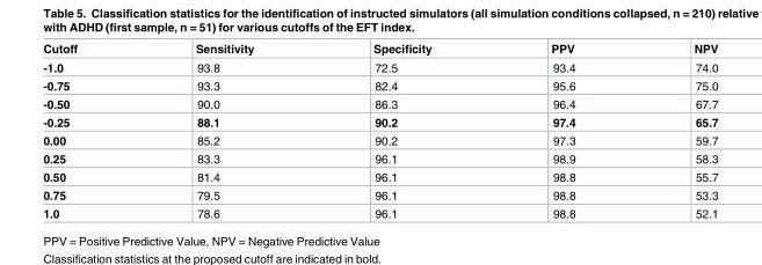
<table><thead><tr><td>Cutoff</td><td>Sensitivity</td><td>Specificity</td><td>PPV</td><td>NPV</td></tr></thead><tbody><tr><td>-1.0</td><td>93.8</td><td>72.5</td><td>93.4</td><td>74.0</td></tr><tr><td>-0.75</td><td>93.3</td><td>82.4</td><td>95.6</td><td>75.0</td></tr><tr><td>-0.50</td><td>90.0</td><td>86.3</td><td>96.4</td><td>67.7</td></tr><tr><td>-0.25</td><td>88.1</td><td>90.2</td><td>97.4</td><td>65.7</td></tr><tr><td>0.00</td><td>85.2</td><td>90.2</td><td>97.3</td><td>59.7</td></tr><tr><td>0.25</td><td>83.3</td><td>96.1</td><td>98.9</td><td>58.3</td></tr><tr><td>0.50</td><td>81.4</td><td>96.1</td><td>98.8</td><td>55.7</td></tr><tr><td>0.75</td><td>79.5</td><td>96.1</td><td>98.8</td><td>53.3</td></tr><tr><td>1.0</td><td>78.6</td><td>96.1</td><td>98.8</td><td>52.1</td></tr></tbody></table>